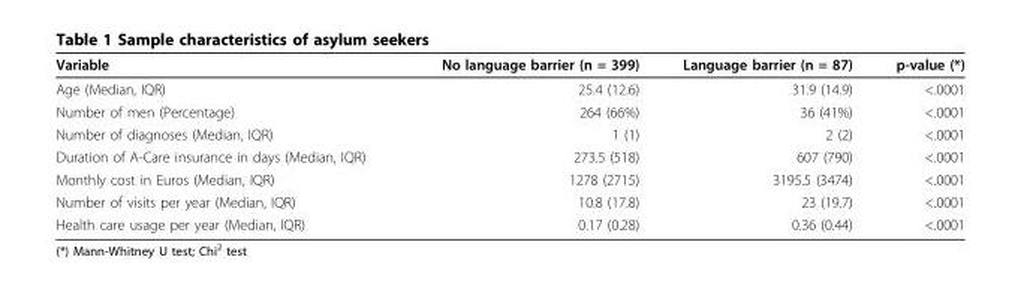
<table><thead><tr><td>Variable</td><td>No language barrier (n = 399)</td><td>Language barrier (n = 87)</td><td>p-value (*)</td></tr></thead><tbody><tr><td>Age (Median, IQR)</td><td>25.4 (12.6)</td><td>31.9 (14.9)</td><td>&lt;.0001</td></tr><tr><td>Number of men (Percentage)</td><td>264 (66%)</td><td>36 (41%)</td><td>&lt;.0001</td></tr><tr><td>Number of diagnoses (Median, IQR)</td><td>1 (1)</td><td>2 (2)</td><td>&lt;.0001</td></tr><tr><td>Duration of A-Care insurance in days (Median, IQR)</td><td>273.5 (518)</td><td>607 (790)</td><td>&lt;.0001</td></tr><tr><td>Monthly cost in Euros (Median, IQR)</td><td>1278 (2715)</td><td>3195.5 (3474)</td><td>&lt;.0001</td></tr><tr><td>Number of visits per year (Median, IQR)</td><td>10.8 (17.8)</td><td>23 (19.7)</td><td>&lt;.0001</td></tr><tr><td>Health care usage per year (Median, IQR)</td><td>0.17 (0.28)</td><td>0.36 (0.44)</td><td>&lt;.0001</td></tr></tbody></table>